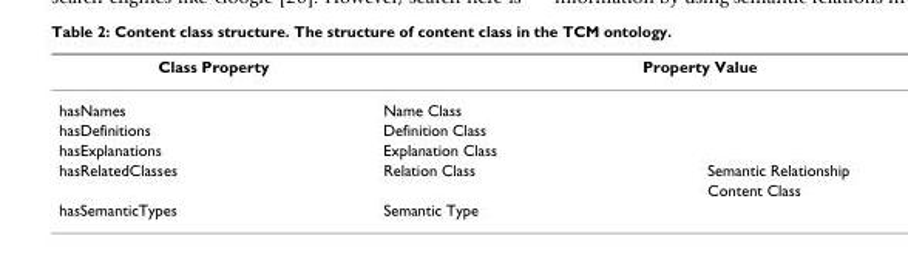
<table><thead><tr><td>Class Property</td><td colspan="2">Property Value</td></tr></thead><tbody><tr><td>hasNames</td><td colspan="2">Name Class</td></tr><tr><td>hasDefinitions</td><td colspan="2">Definition Class</td></tr><tr><td>hasExplanations</td><td colspan="2">Explanation Class</td></tr><tr><td rowspan="2">hasRelatedClasses</td><td>Relation Class</td><td>Semantic Relationship</td></tr><tr><td></td><td>Content Class</td></tr><tr><td>hasSemanticTypes</td><td colspan="2">Semantic Type</td></tr></tbody></table>